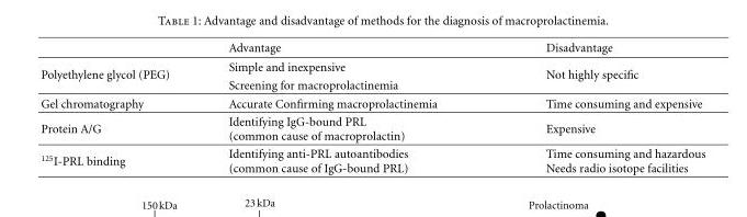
<table><thead><tr><td></td><td>Advantage</td><td>Disadvantage</td></tr></thead><tbody><tr><td rowspan="2">Polyethylene glycol (PEG)</td><td>Simple and inexpensive</td><td rowspan="2">Not highly specific</td></tr><tr><td>Screening for macroprolactinemia</td></tr><tr><td>Gel chromatography</td><td>Accurate Confirming macroprolactinemia</td><td>Time consuming and expensive</td></tr><tr><td>Protein A/G</td><td>Identifying IgG-bound PRL (common cause of macroprolactin)</td><td>Expensive</td></tr><tr><td><sup>125</sup>I-PRL binding</td><td>Identifying anti-PRL autoantibodies (common cause of IgG-bound PRL)</td><td>Time consuming and hazardous Needs radio isotope facilities</td></tr></tbody></table>